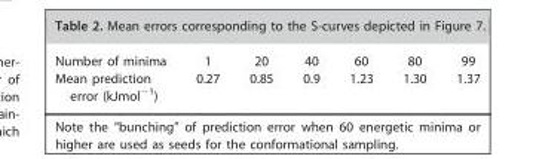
<table><tbody><tr><td>Number of minima</td><td>1</td><td>20</td><td>40</td><td>60</td><td>80</td><td>99</td></tr><tr><td>Mean prediction error (kJmol<sup>−1</sup>)</td><td>0.27</td><td>0.85</td><td>0.9</td><td>1.23</td><td>1.30</td><td>1.37</td></tr></tbody></table>